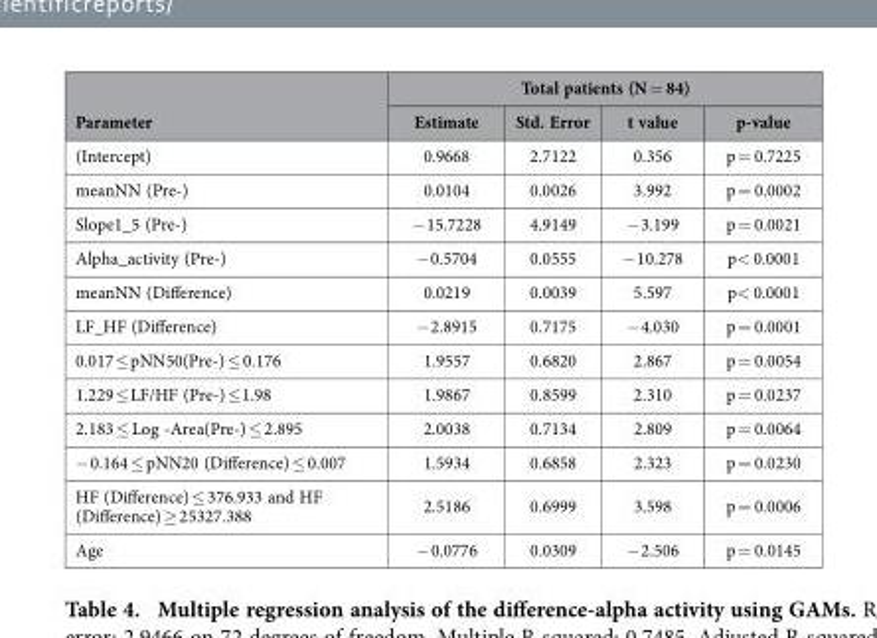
<table><thead><tr><td rowspan="2">Parameter</td><td colspan="4">Total patients (N = 84)</td></tr><tr><td>Estimate</td><td>Std. Error</td><td>t value</td><td>p-value</td></tr></thead><tbody><tr><td>(Intercept)</td><td>0.9668</td><td>2.7122</td><td>0.356</td><td>p = 0.7225</td></tr><tr><td>meanNN (Pre-)</td><td>0.0104</td><td>0.0026</td><td>3.992</td><td>p = 0.0002</td></tr><tr><td>Slope1_5 (Pre-)</td><td>− 15.7228</td><td>4.9149</td><td>− 3.199</td><td>p = 0.0021</td></tr><tr><td>Alpha_activity (Pre-)</td><td>− 0.5704</td><td>0.0555</td><td>− 10.278</td><td>p&lt; 0.0001</td></tr><tr><td>meanNN (Difference)</td><td>0.0219</td><td>0.0039</td><td>5.597</td><td>p&lt; 0.0001</td></tr><tr><td>LF_HF (Difference)</td><td>− 2.8915</td><td>0.7175</td><td>− 4.030</td><td>p = 0.0001</td></tr><tr><td>0.017 ≤ pNN50(Pre-) ≤ 0.176</td><td>1.9557</td><td>0.6820</td><td>2.867</td><td>p = 0.0054</td></tr><tr><td>1.229 ≤ LF/HF (Pre-) ≤ 1.98</td><td>1.9867</td><td>0.8599</td><td>2.310</td><td>p = 0.0237</td></tr><tr><td>2.183 ≤ Log -Area(Pre-) ≤ 2.895</td><td>2.0038</td><td>0.7134</td><td>2.809</td><td>p = 0.0064</td></tr><tr><td>− 0.164 ≤ pNN20 (Difference) ≤ 0.007</td><td>1.5934</td><td>0.6858</td><td>2.323</td><td>p = 0.0230</td></tr><tr><td>HF (Difference) ≤ 376.933 and HF (Difference) ≥ 25327.388</td><td>2.5186</td><td>0.6999</td><td>3.598</td><td>p = 0.0006</td></tr><tr><td>Age</td><td>− 0.0776</td><td>0.0309</td><td>− 2.506</td><td>p = 0.0145</td></tr></tbody></table>